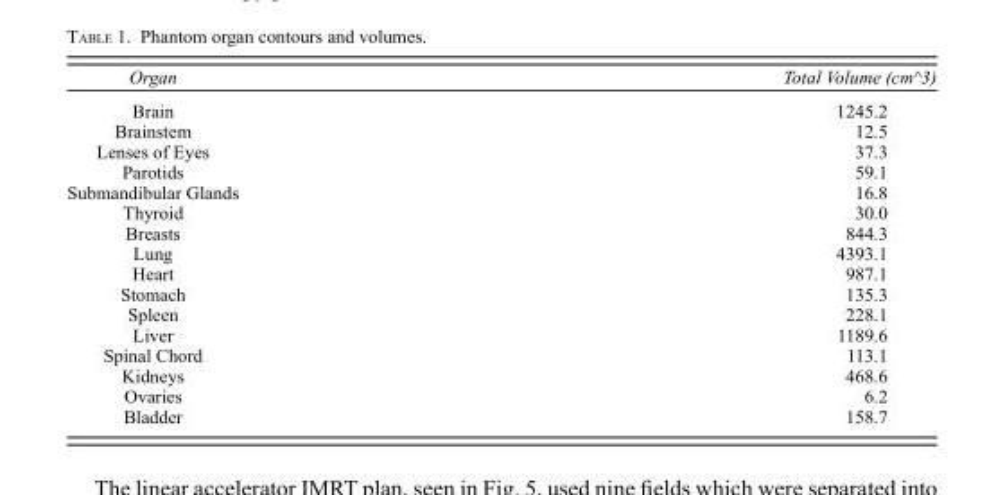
<table><thead><tr><td>Organ</td><td>Total Volume (cm^3)</td></tr></thead><tbody><tr><td>Brain</td><td>1245.2</td></tr><tr><td>Brainstem</td><td>12.5</td></tr><tr><td>Lenses of Eyes</td><td>37.3</td></tr><tr><td>Parotids</td><td>59.1</td></tr><tr><td>Submandibular Glands</td><td>16.8</td></tr><tr><td>Thyroid</td><td>30.0</td></tr><tr><td>Breasts</td><td>844.3</td></tr><tr><td>Lung</td><td>4393.1</td></tr><tr><td>Heart</td><td>987.1</td></tr><tr><td>Stomach</td><td>135.3</td></tr><tr><td>Spleen</td><td>228.1</td></tr><tr><td>Liver</td><td>1189.6</td></tr><tr><td>Spinal Chord</td><td>113.1</td></tr><tr><td>Kidneys</td><td>468.6</td></tr><tr><td>Ovaries</td><td>6.2</td></tr><tr><td>Bladder</td><td>158.7</td></tr></tbody></table>